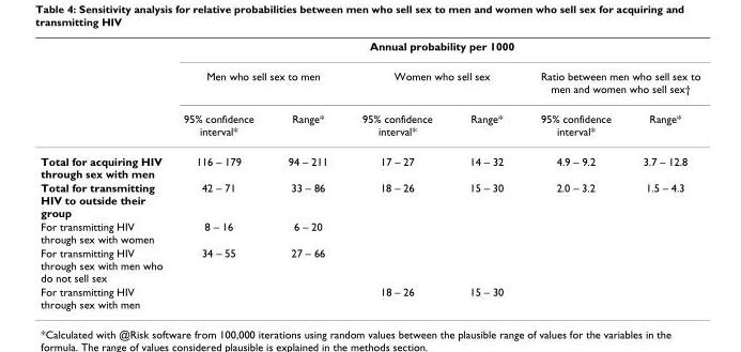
<table><thead><tr><td rowspan="3"></td><td colspan="6">Annual probability per 1000</td></tr><tr><td colspan="2">Men who sell sex to men</td><td colspan="2">Women who sell sex</td><td colspan="2">Ratio between men who sell sex to men and women who sell sex†</td></tr><tr><td>95% confidence interval*</td><td>Range*</td><td>95% confidence interval*</td><td>Range*</td><td>95% confidence interval*</td><td>Range*</td></tr></thead><tbody><tr><td>Total for acquiring HIV through sex with men</td><td>116 – 179</td><td>94 – 211</td><td>17 – 27</td><td>14 – 32</td><td>4.9 – 9.2</td><td>3.7 – 12.8</td></tr><tr><td>Total for transmitting HIV to outside their group</td><td>42 – 71</td><td>33 – 86</td><td>18 – 26</td><td>15 – 30</td><td>2.0 – 3.2</td><td>1.5 – 4.3</td></tr><tr><td>For transmitting HIV through sex with women</td><td>8 – 16</td><td>6 – 20</td><td></td><td></td><td></td><td></td></tr><tr><td>For transmitting HIV through sex with men who do not sell sex</td><td>34 – 55</td><td>27 – 66</td><td></td><td></td><td></td><td></td></tr><tr><td>For transmitting HIV through sex with men</td><td></td><td></td><td>18 – 26</td><td>15 – 30</td><td></td><td></td></tr></tbody></table>